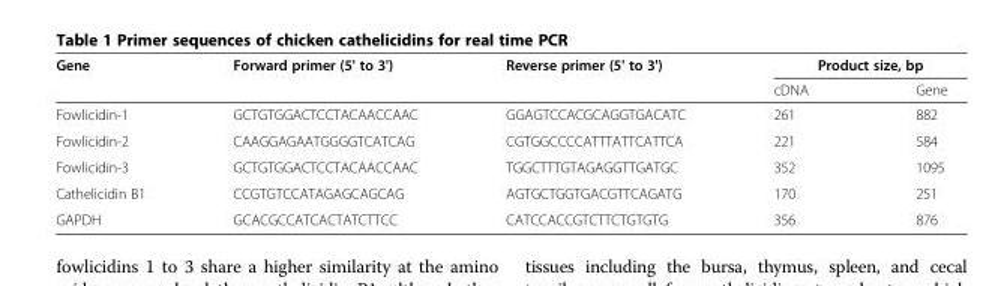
<table><thead><tr><td rowspan="2">Gene</td><td rowspan="2">Forward primer (5&#x27; to 3&#x27;)</td><td rowspan="2">Reverse primer (5&#x27; to 3&#x27;)</td><td colspan="2">Product size, bp</td></tr><tr><td>cDNA</td><td>Gene</td></tr></thead><tbody><tr><td>Fowlicidin-1</td><td>GCTGTGGACTCCTACAACCAAC</td><td>GGAGTCCACGCAGGTGACATC</td><td>261</td><td>882</td></tr><tr><td>Fowlicidin-2</td><td>CAAGGAGAATGGGGTCATCAG</td><td>CGTGGCCCCATTTATTCATTCA</td><td>221</td><td>584</td></tr><tr><td>Fowlicidin-3</td><td>GCTGTGGACTCCTACAACCAAC</td><td>TGGCTTTGTAGAGGTTGATGC</td><td>352</td><td>1095</td></tr><tr><td>Cathelicidin B1</td><td>CCGTGTCCATAGAGCAGCAG</td><td>AGTGCTGGTGACGTTCAGATG</td><td>170</td><td>251</td></tr><tr><td>GAPDH</td><td>GCACGCCATCACTATCTTCC</td><td>CATCCACCGTCTTCTGTGTG</td><td>356</td><td>876</td></tr></tbody></table>